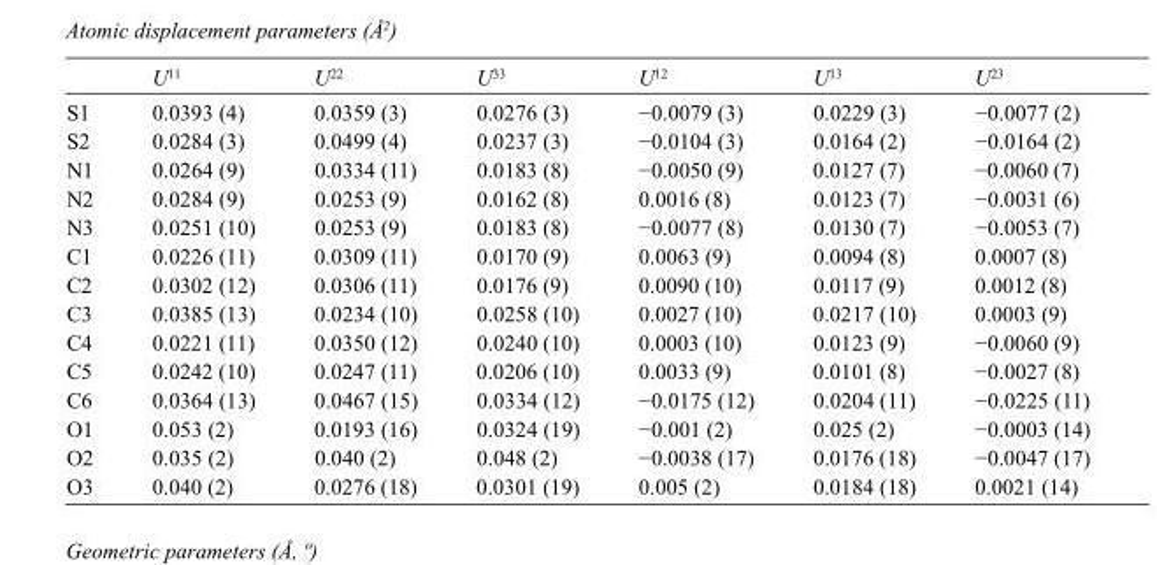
<table><thead><tr><td></td><td>U<sup>11</sup></td><td>U<sup>22</sup></td><td>U<sup>33</sup></td><td>U<sup>12</sup></td><td>U<sup>13</sup></td><td>U<sup>23</sup></td></tr></thead><tbody><tr><td>S1</td><td>0.0393 (4)</td><td>0.0359 (3)</td><td>0.0276 (3)</td><td>−0.0079 (3)</td><td>0.0229 (3)</td><td>−0.0077 (2)</td></tr><tr><td>S2</td><td>0.0284 (3)</td><td>0.0499 (4)</td><td>0.0237 (3)</td><td>−0.0104 (3)</td><td>0.0164 (2)</td><td>−0.0164 (2)</td></tr><tr><td>N1</td><td>0.0264 (9)</td><td>0.0334 (11)</td><td>0.0183 (8)</td><td>−0.0050 (9)</td><td>0.0127 (7)</td><td>−0.0060 (7)</td></tr><tr><td>N2</td><td>0.0284 (9)</td><td>0.0253 (9)</td><td>0.0162 (8)</td><td>0.0016 (8)</td><td>0.0123 (7)</td><td>−0.0031 (6)</td></tr><tr><td>N3</td><td>0.0251 (10)</td><td>0.0253 (9)</td><td>0.0183 (8)</td><td>−0.0077 (8)</td><td>0.0130 (7)</td><td>−0.0053 (7)</td></tr><tr><td>C1</td><td>0.0226 (11)</td><td>0.0309 (11)</td><td>0.0170 (9)</td><td>0.0063 (9)</td><td>0.0094 (8)</td><td>0.0007 (8)</td></tr><tr><td>C2</td><td>0.0302 (12)</td><td>0.0306 (11)</td><td>0.0176 (9)</td><td>0.0090 (10)</td><td>0.0117 (9)</td><td>0.0012 (8)</td></tr><tr><td>C3</td><td>0.0385 (13)</td><td>0.0234 (10)</td><td>0.0258 (10)</td><td>0.0027 (10)</td><td>0.0217 (10)</td><td>0.0003 (9)</td></tr><tr><td>C4</td><td>0.0221 (11)</td><td>0.0350 (12)</td><td>0.0240 (10)</td><td>0.0003 (10)</td><td>0.0123 (9)</td><td>−0.0060 (9)</td></tr><tr><td>C5</td><td>0.0242 (10)</td><td>0.0247 (11)</td><td>0.0206 (10)</td><td>0.0033 (9)</td><td>0.0101 (8)</td><td>−0.0027 (8)</td></tr><tr><td>C6</td><td>0.0364 (13)</td><td>0.0467 (15)</td><td>0.0334 (12)</td><td>−0.0175 (12)</td><td>0.0204 (11)</td><td>−0.0225 (11)</td></tr><tr><td>O1</td><td>0.053 (2)</td><td>0.0193 (16)</td><td>0.0324 (19)</td><td>−0.001 (2)</td><td>0.025 (2)</td><td>−0.0003 (14)</td></tr><tr><td>O2</td><td>0.035 (2)</td><td>0.040 (2)</td><td>0.048 (2)</td><td>−0.0038 (17)</td><td>0.0176 (18)</td><td>−0.0047 (17)</td></tr><tr><td>O3</td><td>0.040 (2)</td><td>0.0276 (18)</td><td>0.0301 (19)</td><td>0.005 (2)</td><td>0.0184 (18)</td><td>0.0021 (14)</td></tr></tbody></table>